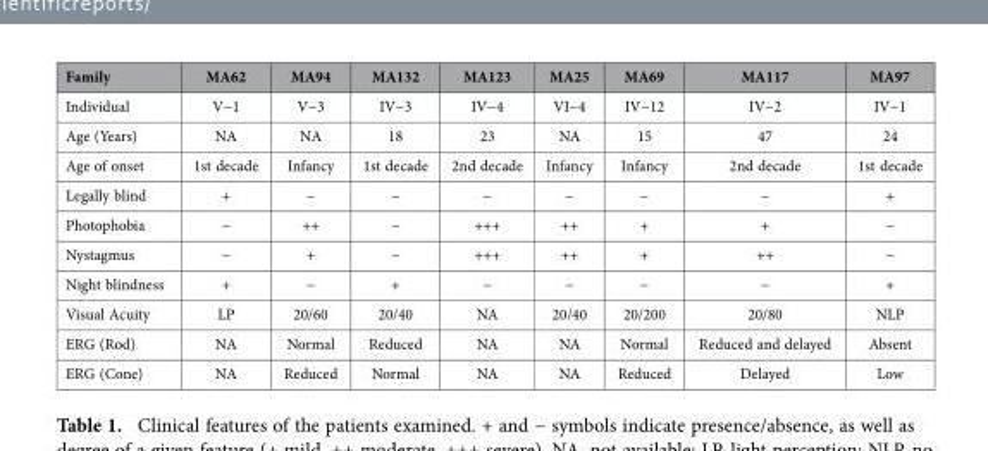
<table><thead><tr><td>Family</td><td>MA62</td><td>MA94</td><td>MA132</td><td>MA123</td><td>MA25</td><td>MA69</td><td>MA117</td><td>MA97</td></tr></thead><tbody><tr><td>Individual</td><td>V−1</td><td>V−3</td><td>IV−3</td><td>IV−4</td><td>VI−4</td><td>IV−12</td><td>IV−2</td><td>IV−1</td></tr><tr><td>Age (Years)</td><td>NA</td><td>NA</td><td>18</td><td>23</td><td>NA</td><td>15</td><td>47</td><td>24</td></tr><tr><td>Age of onset</td><td>1st decade</td><td>Infancy</td><td>1st decade</td><td>2nd decade</td><td>Infancy</td><td>Infancy</td><td>2nd decade</td><td>1st decade</td></tr><tr><td>Legally blind</td><td>+</td><td>−</td><td>−</td><td>−</td><td>−</td><td>−</td><td>−</td><td>+</td></tr><tr><td>Photophobia</td><td>−</td><td>++</td><td>−</td><td>+++</td><td>++</td><td>+</td><td>+</td><td>−</td></tr><tr><td>Nystagmus</td><td>−</td><td>+</td><td>−</td><td>+++</td><td>++</td><td>+</td><td>++</td><td>−</td></tr><tr><td>Night blindness</td><td>+</td><td>−</td><td>+</td><td>−</td><td>−</td><td>−</td><td>−</td><td>+</td></tr><tr><td>Visual Acuity</td><td>LP</td><td>20/60</td><td>20/40</td><td>NA</td><td>20/40</td><td>20/200</td><td>20/80</td><td>NLP</td></tr><tr><td>ERG (Rod)</td><td>NA</td><td>Normal</td><td>Reduced</td><td>NA</td><td>NA</td><td>Normal</td><td>Reduced and delayed</td><td>Absent</td></tr><tr><td>ERG (Cone)</td><td>NA</td><td>Reduced</td><td>Normal</td><td>NA</td><td>NA</td><td>Reduced</td><td>Delayed</td><td>Low</td></tr></tbody></table>